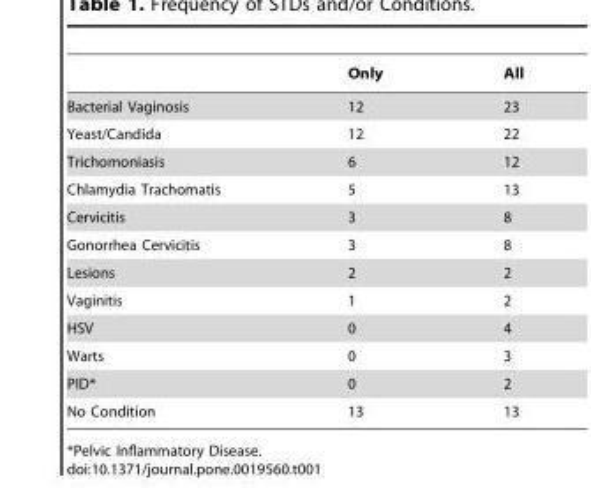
<table><thead><tr><td></td><td>Only</td><td>All</td></tr></thead><tbody><tr><td>Bacterial Vaginosis</td><td>12</td><td>23</td></tr><tr><td>Yeast/Candida</td><td>12</td><td>22</td></tr><tr><td>Trichomoniasis</td><td>6</td><td>12</td></tr><tr><td>Chlamydia Trachomatis</td><td>5</td><td>13</td></tr><tr><td>Cervicitis</td><td>3</td><td>8</td></tr><tr><td>Gonorrhea Cervicitis</td><td>3</td><td>8</td></tr><tr><td>Lesions</td><td>2</td><td>2</td></tr><tr><td>Vaginitis</td><td>1</td><td>2</td></tr><tr><td>HSV</td><td>0</td><td>4</td></tr><tr><td>Warts</td><td>0</td><td>3</td></tr><tr><td>PID*</td><td>0</td><td>2</td></tr><tr><td>No Condition</td><td>13</td><td>13</td></tr></tbody></table>